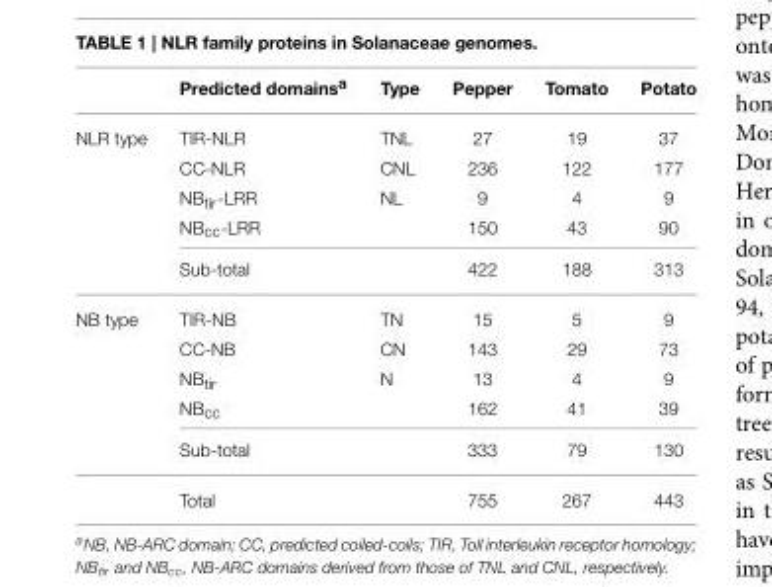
<table><thead><tr><td></td><td>Predicted domains<sup>a</sup></td><td>Type</td><td>Pepper</td><td>Tomato</td><td>Potato</td></tr></thead><tbody><tr><td rowspan="5">NLR type</td><td>TIR-NLR</td><td>TNL</td><td>27</td><td>19</td><td>37</td></tr><tr><td>CC-NLR</td><td>CNL</td><td>236</td><td>122</td><td>177</td></tr><tr><td>NB<sub>tir</sub>-LRR</td><td>NL</td><td>9</td><td>4</td><td>9</td></tr><tr><td>NB<sub>cc</sub>-LRR</td><td></td><td>150</td><td>43</td><td>90</td></tr><tr><td>Sub-total</td><td></td><td>422</td><td>188</td><td>313</td></tr><tr><td rowspan="6">NB type</td><td>TIR-NB</td><td>TN</td><td>15</td><td>5</td><td>9</td></tr><tr><td>CC-NB</td><td>CN</td><td>143</td><td>29</td><td>73</td></tr><tr><td>NB<sub>tir</sub></td><td>N</td><td>13</td><td>4</td><td>9</td></tr><tr><td>NB<sub>cc</sub></td><td></td><td>162</td><td>41</td><td>39</td></tr><tr><td>Sub-total</td><td></td><td>333</td><td>79</td><td>130</td></tr><tr><td>Total</td><td></td><td>755</td><td>267</td><td>443</td></tr></tbody></table>